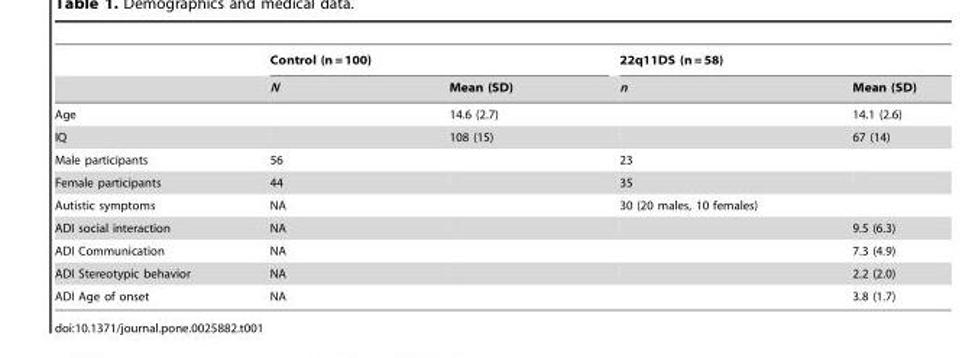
<table><thead><tr><td rowspan="2"></td><td colspan="2">Control (n = 100)</td><td colspan="2">22q11DS (n = 58)</td></tr><tr><td>N</td><td>Mean (SD)</td><td>n</td><td>Mean (SD)</td></tr></thead><tbody><tr><td>Age</td><td></td><td>14.6 (2.7)</td><td></td><td>14.1 (2.6)</td></tr><tr><td>IQ</td><td></td><td>108 (15)</td><td></td><td>67 (14)</td></tr><tr><td>Male participants</td><td>56</td><td></td><td>23</td><td></td></tr><tr><td>Female participants</td><td>44</td><td></td><td>35</td><td></td></tr><tr><td>Autistic symptoms</td><td>NA</td><td></td><td>30 (20 males, 10 females)</td><td></td></tr><tr><td>ADI social interaction</td><td>NA</td><td></td><td></td><td>9.5 (6.3)</td></tr><tr><td>ADI Communication</td><td>NA</td><td></td><td></td><td>7.3 (4.9)</td></tr><tr><td>ADI Stereotypic behavior</td><td>NA</td><td></td><td></td><td>2.2 (2.0)</td></tr><tr><td>ADI Age of onset</td><td>NA</td><td></td><td></td><td>3.8 (1.7)</td></tr></tbody></table>